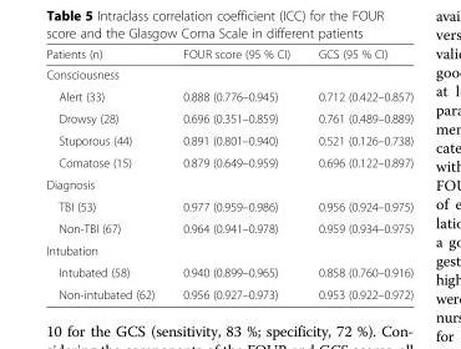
<table><thead><tr><td>Patients (n)</td><td>FOUR score (95 % CI)</td><td>GCS (95 % CI)</td></tr></thead><tbody><tr><td colspan="3">Consciousness</td></tr><tr><td>Alert (33)</td><td>0.888 (0.776–0.945)</td><td>0.712 (0.422–0.857)</td></tr><tr><td>Drowsy (28)</td><td>0.696 (0.351–0.859)</td><td>0.761 (0.489–0.889)</td></tr><tr><td>Stuporous (44)</td><td>0.891 (0.801–0.940)</td><td>0.521 (0.126–0.738)</td></tr><tr><td>Comatose (15)</td><td>0.879 (0.649–0.959)</td><td>0.696 (0.122–0.897)</td></tr><tr><td colspan="3">Diagnosis</td></tr><tr><td>TBI (53)</td><td>0.977 (0.959–0.986)</td><td>0.956 (0.924–0.975)</td></tr><tr><td>Non-TBI (67)</td><td>0.964 (0.941–0.978)</td><td>0.959 (0.934–0.975)</td></tr><tr><td colspan="3">Intubation</td></tr><tr><td>Intubated (58)</td><td>0.940 (0.899–0.965)</td><td>0.858 (0.760–0.916)</td></tr><tr><td>Non-intubated (62)</td><td>0.956 (0.927–0.973)</td><td>0.953 (0.922–0.972)</td></tr></tbody></table>